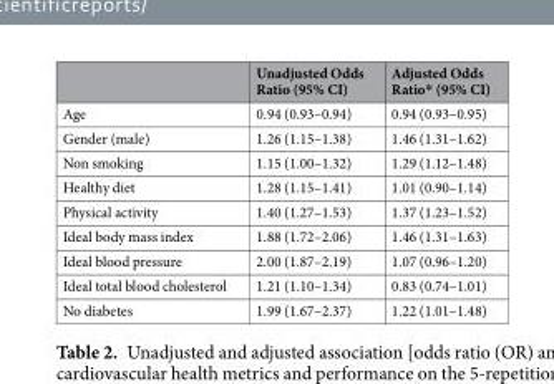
<table><thead><tr><td></td><td>Unadjusted Odds Ratio (95% CI)</td><td>Adjusted Odds Ratio* (95% CI)</td></tr></thead><tbody><tr><td>Age</td><td>0.94 (0.93–0.94)</td><td>0.94 (0.93–0.95)</td></tr><tr><td>Gender (male)</td><td>1.26 (1.15–1.38)</td><td>1.46 (1.31–1.62)</td></tr><tr><td>Non smoking</td><td>1.15 (1.00–1.32)</td><td>1.29 (1.12–1.48)</td></tr><tr><td>Healthy diet</td><td>1.28 (1.15–1.41)</td><td>1.01 (0.90–1.14)</td></tr><tr><td>Physical activity</td><td>1.40 (1.27–1.53)</td><td>1.37 (1.23–1.52)</td></tr><tr><td>Ideal body mass index</td><td>1.88 (1.72–2.06)</td><td>1.46 (1.31–1.63)</td></tr><tr><td>Ideal blood pressure</td><td>2.00 (1.87–2.19)</td><td>1.07 (0.96–1.20)</td></tr><tr><td>Ideal total blood cholesterol</td><td>1.21 (1.10–1.34)</td><td>0.83 (0.74–1.01)</td></tr><tr><td>No diabetes</td><td>1.99 (1.67–2.37)</td><td>1.22 (1.01–1.48)</td></tr></tbody></table>